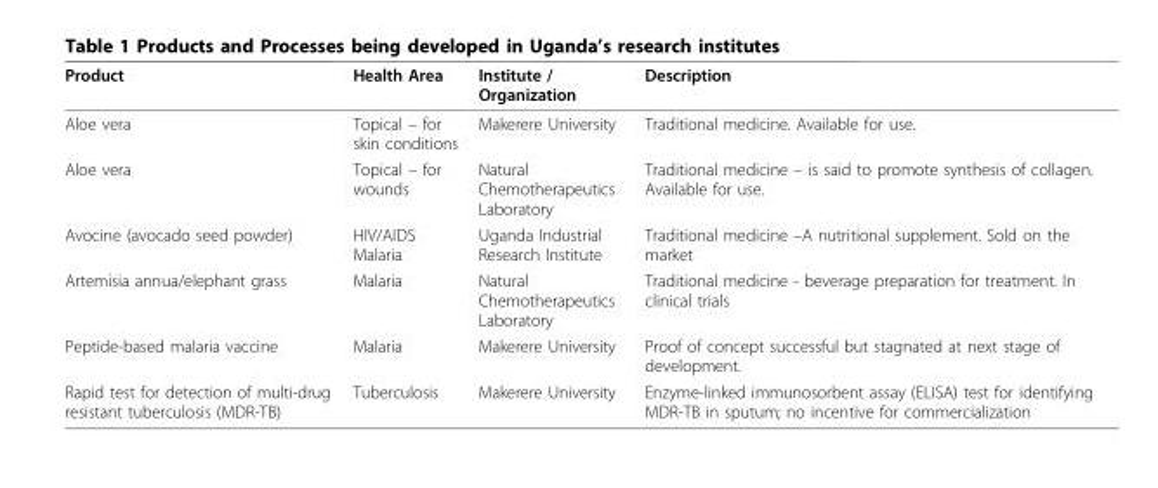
<table><thead><tr><td>Product</td><td>Health Area</td><td>Institute / Organization</td><td>Description</td></tr></thead><tbody><tr><td>Aloe vera</td><td>Topical – for skin conditions</td><td>Makerere University</td><td>Traditional medicine. Available for use.</td></tr><tr><td>Aloe vera</td><td>Topical – for wounds</td><td>Natural Chemotherapeutics Laboratory</td><td>Traditional medicine – is said to promote synthesis of collagen. Available for use.</td></tr><tr><td>Avocine (avocado seed powder)</td><td>HIV/AIDS Malaria</td><td>Uganda Industrial Research Institute</td><td>Traditional medicine –A nutritional supplement. Sold on the market</td></tr><tr><td>Artemisia annua/elephant grass</td><td>Malaria</td><td>Natural Chemotherapeutics Laboratory</td><td>Traditional medicine - beverage preparation for treatment. In clinical trials</td></tr><tr><td>Peptide-based malaria vaccine</td><td>Malaria</td><td>Makerere University</td><td>Proof of concept successful but stagnated at next stage of development.</td></tr><tr><td>Rapid test for detection of multi-drug resistant tuberculosis (MDR-TB)</td><td>Tuberculosis</td><td>Makerere University</td><td>Enzyme-linked immunosorbent assay (ELISA) test for identifying MDR-TB in sputum; no incentive for commercialization</td></tr></tbody></table>